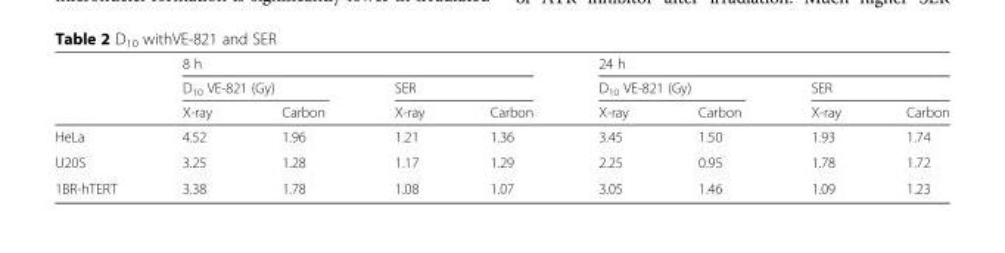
<table><thead><tr><td rowspan="3"></td><td colspan="4">8 h</td><td colspan="4">24 h</td></tr><tr><td colspan="2">D<sub>10</sub> VE-821 (Gy)</td><td colspan="2">SER</td><td colspan="2">D<sub>10</sub> VE-821 (Gy)</td><td colspan="2">SER</td></tr><tr><td>X-ray</td><td>Carbon</td><td>X-ray</td><td>Carbon</td><td>X-ray</td><td>Carbon</td><td>X-ray</td><td>Carbon</td></tr></thead><tbody><tr><td>HeLa</td><td>4.52</td><td>1.96</td><td>1.21</td><td>1.36</td><td>3.45</td><td>1.50</td><td>1.93</td><td>1.74</td></tr><tr><td>U20S</td><td>3.25</td><td>1.28</td><td>1.17</td><td>1.29</td><td>2.25</td><td>0.95</td><td>1.78</td><td>1.72</td></tr><tr><td>1BR-hTERT</td><td>3.38</td><td>1.78</td><td>1.08</td><td>1.07</td><td>3.05</td><td>1.46</td><td>1.09</td><td>1.23</td></tr></tbody></table>